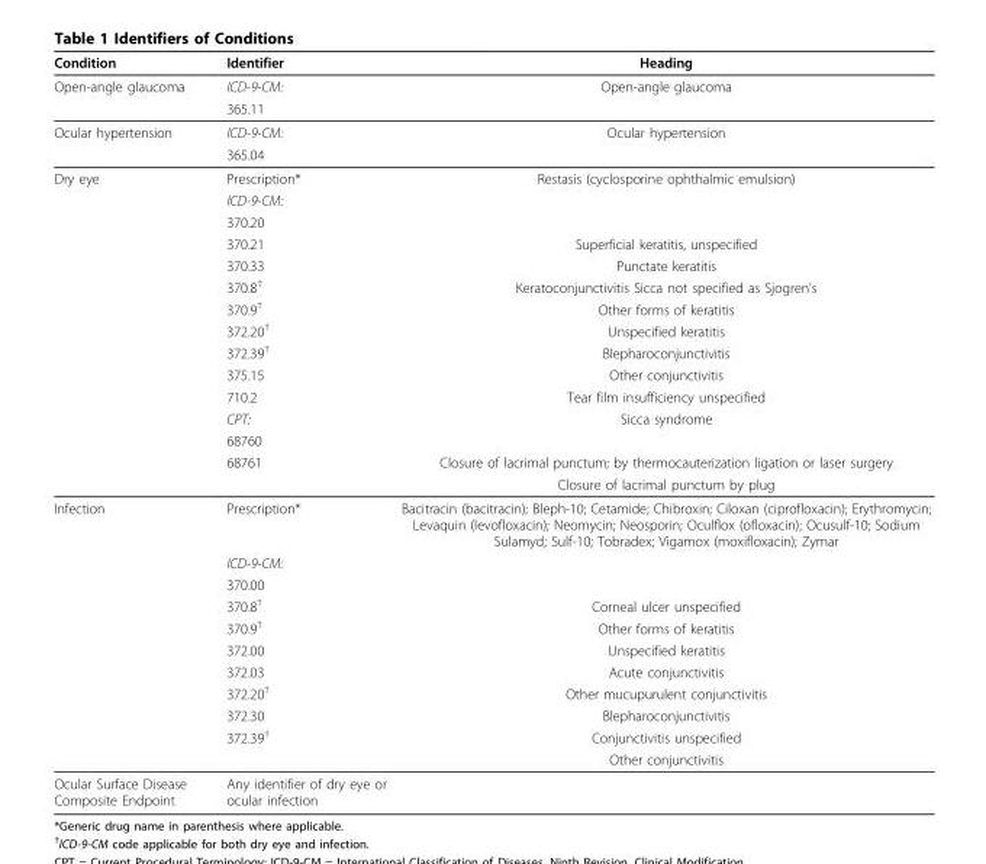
<table><thead><tr><td>Condition</td><td>Identifier</td><td>Heading</td></tr></thead><tbody><tr><td rowspan="2">Open-angle glaucoma</td><td>ICD-9-CM:</td><td>Open-angle glaucoma</td></tr><tr><td>365.11</td><td></td></tr><tr><td rowspan="2">Ocular hypertension</td><td>ICD-9-CM:</td><td>Ocular hypertension</td></tr><tr><td>365.04</td><td></td></tr><tr><td rowspan="15">Dry eye</td><td>Prescription*</td><td>Restasis (cyclosporine ophthalmic emulsion)</td></tr><tr><td>ICD-9-CM:</td><td></td></tr><tr><td>370.20</td><td></td></tr><tr><td>370.21</td><td>Superficial keratitis, unspecified</td></tr><tr><td>370.33</td><td>Punctate keratitis</td></tr><tr><td>370.8<sup>†</sup></td><td>Keratoconjunctivitis Sicca not specified as Sjogren’s</td></tr><tr><td>370.9<sup>†</sup></td><td>Other forms of keratitis</td></tr><tr><td>372.20<sup>†</sup></td><td>Unspecified keratitis</td></tr><tr><td>372.39<sup>†</sup></td><td>Blepharoconjunctivitis</td></tr><tr><td>375.15</td><td>Other conjunctivitis</td></tr><tr><td>710.2</td><td>Tear film insufficiency unspecified</td></tr><tr><td>CPT:</td><td>Sicca syndrome</td></tr><tr><td>68760</td><td></td></tr><tr><td>68761</td><td>Closure of lacrimal punctum; by thermocauterization ligation or laser surgery</td></tr><tr><td></td><td>Closure of lacrimal punctum by plug</td></tr><tr><td rowspan="11">Infection</td><td>Prescription*</td><td>Bacitracin (bacitracin); Bleph-10; Cetamide; Chibroxin; Ciloxan (ciprofloxacin); Erythromycin; Levaquin (levofloxacin); Neomycin; Neosporin; Oculflox (ofloxacin); Ocusulf-10; Sodium Sulamyd; Sulf-10; Tobradex; Vigamox (moxifloxacin); Zymar</td></tr><tr><td>ICD-9-CM:</td><td></td></tr><tr><td>370.00</td><td></td></tr><tr><td>370.8<sup>†</sup></td><td>Corneal ulcer unspecified</td></tr><tr><td>370.9<sup>†</sup></td><td>Other forms of keratitis</td></tr><tr><td>372.00</td><td>Unspecified keratitis</td></tr><tr><td>372.03</td><td>Acute conjunctivitis</td></tr><tr><td>372.20<sup>†</sup></td><td>Other mucupurulent conjunctivitis</td></tr><tr><td>372.30</td><td>Blepharoconjunctivitis</td></tr><tr><td>372.39<sup>†</sup></td><td>Conjunctivitis unspecified</td></tr><tr><td></td><td>Other conjunctivitis</td></tr><tr><td>Ocular Surface Disease Composite Endpoint</td><td>Any identifier of dry eye or ocular infection</td><td></td></tr></tbody></table>